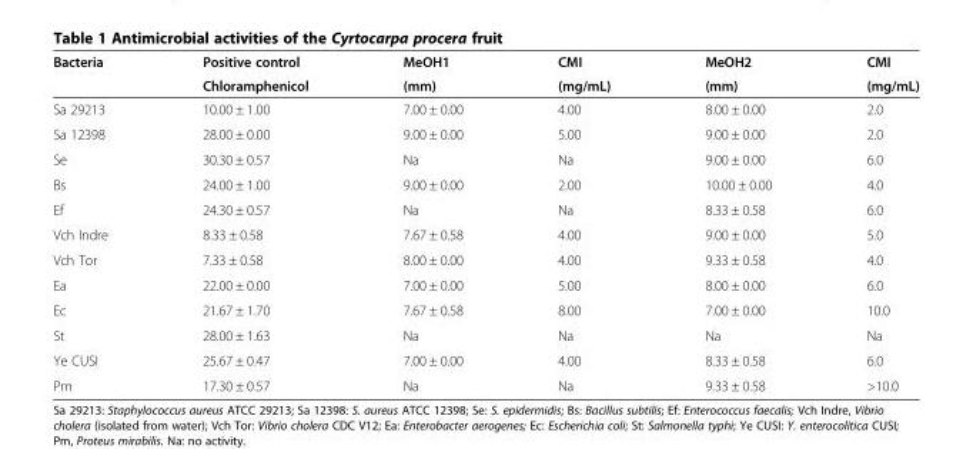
<table><thead><tr><td rowspan="2">Bacteria</td><td rowspan="2">Positive control Chloramphenicol</td><td rowspan="2">MeOH1 (mm)</td><td rowspan="2">CMI (mg/mL)</td><td rowspan="2">MeOH2 (mm)</td><td rowspan="2">CMI (mg/mL)</td></tr><tr></tr></thead><tbody><tr><td>Sa 29213</td><td>10.00 ± 1.00</td><td>7.00 ± 0.00</td><td>4.00</td><td>8.00 ± 0.00</td><td>2.0</td></tr><tr><td>Sa 12398</td><td>28.00 ± 0.00</td><td>9.00 ± 0.00</td><td>5.00</td><td>9.00 ± 0.00</td><td>2.0</td></tr><tr><td>Se</td><td>30.30 ± 0.57</td><td>Na</td><td>Na</td><td>9.00 ± 0.00</td><td>6.0</td></tr><tr><td>Bs</td><td>24.00 ± 1.00</td><td>9.00 ± 0.00</td><td>2.00</td><td>10.00 ± 0.00</td><td>4.0</td></tr><tr><td>Ef</td><td>24.30 ± 0.57</td><td>Na</td><td>Na</td><td>8.33 ± 0.58</td><td>6.0</td></tr><tr><td>Vch Indre</td><td>8.33 ± 0.58</td><td>7.67 ± 0.58</td><td>4.00</td><td>9.00 ± 0.00</td><td>5.0</td></tr><tr><td>Vch Tor</td><td>7.33 ± 0.58</td><td>8.00 ± 0.00</td><td>4.00</td><td>9.33 ± 0.58</td><td>4.0</td></tr><tr><td>Ea</td><td>22.00 ± 0.00</td><td>7.00 ± 0.00</td><td>5.00</td><td>8.00 ± 0.00</td><td>6.0</td></tr><tr><td>Ec</td><td>21.67 ± 1.70</td><td>7.67 ± 0.58</td><td>8.00</td><td>7.00 ± 0.00</td><td>10.0</td></tr><tr><td>St</td><td>28.00 ± 1.63</td><td>Na</td><td>Na</td><td>Na</td><td>Na</td></tr><tr><td>Ye CUSI</td><td>25.67 ± 0.47</td><td>7.00 ± 0.00</td><td>4.00</td><td>8.33 ± 0.58</td><td>6.0</td></tr><tr><td>Pm</td><td>17.30 ± 0.57</td><td>Na</td><td>Na</td><td>9.33 ± 0.58</td><td>&gt;10.0</td></tr></tbody></table>